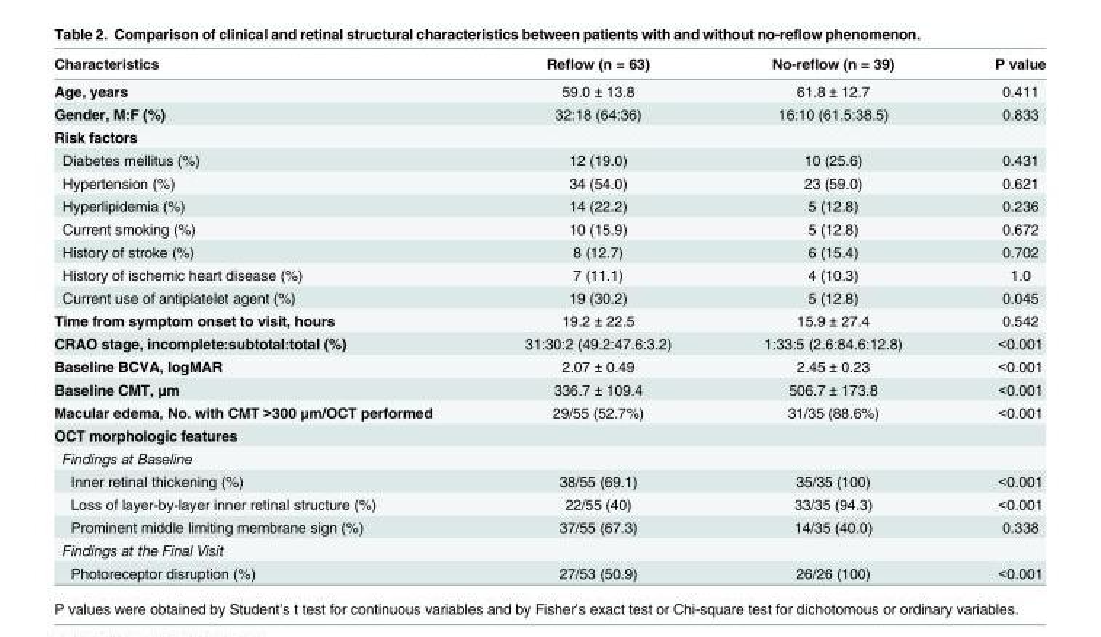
<table><thead><tr><td>Characteristics</td><td>Reflow (n = 63)</td><td>No-reflow (n = 39)</td><td>P value</td></tr></thead><tbody><tr><td>Age, years</td><td>59.0 ± 13.8</td><td>61.8 ± 12.7</td><td>0.411</td></tr><tr><td>Gender, M:F (%)</td><td>32:18 (64:36)</td><td>16:10 (61.5:38.5)</td><td>0.833</td></tr><tr><td colspan="4">Risk factors</td></tr><tr><td>Diabetes mellitus (%)</td><td>12 (19.0)</td><td>10 (25.6)</td><td>0.431</td></tr><tr><td>Hypertension (%)</td><td>34 (54.0)</td><td>23 (59.0)</td><td>0.621</td></tr><tr><td>Hyperlipidemia (%)</td><td>14 (22.2)</td><td>5 (12.8)</td><td>0.236</td></tr><tr><td>Current smoking (%)</td><td>10 (15.9)</td><td>5 (12.8)</td><td>0.672</td></tr><tr><td>History of stroke (%)</td><td>8 (12.7)</td><td>6 (15.4)</td><td>0.702</td></tr><tr><td>History of ischemic heart disease (%)</td><td>7 (11.1)</td><td>4 (10.3)</td><td>1.0</td></tr><tr><td>Current use of antiplatelet agent (%)</td><td>19 (30.2)</td><td>5 (12.8)</td><td>0.045</td></tr><tr><td>Time from symptom onset to visit, hours</td><td>19.2 ± 22.5</td><td>15.9 ± 27.4</td><td>0.542</td></tr><tr><td>CRAO stage, incomplete:subtotal:total (%)</td><td>31:30:2 (49.2:47.6:3.2)</td><td>1:33:5 (2.6:84.6:12.8)</td><td>&lt;0.001</td></tr><tr><td>Baseline BCVA, logMAR</td><td>2.07 ± 0.49</td><td>2.45 ± 0.23</td><td>&lt;0.001</td></tr><tr><td>Baseline CMT, μm</td><td>336.7 ± 109.4</td><td>506.7 ± 173.8</td><td>&lt;0.001</td></tr><tr><td>Macular edema, No. with CMT &gt;300 μm/OCT performed</td><td>29/55 (52.7%)</td><td>31/35 (88.6%)</td><td>&lt;0.001</td></tr><tr><td colspan="4">OCT morphologic features</td></tr><tr><td colspan="4">Findings at Baseline</td></tr><tr><td>Inner retinal thickening (%)</td><td>38/55 (69.1)</td><td>35/35 (100)</td><td>&lt;0.001</td></tr><tr><td>Loss of layer-by-layer inner retinal structure (%)</td><td>22/55 (40)</td><td>33/35 (94.3)</td><td>&lt;0.001</td></tr><tr><td>Prominent middle limiting membrane sign (%)</td><td>37/55 (67.3)</td><td>14/35 (40.0)</td><td>0.338</td></tr><tr><td colspan="4">Findings at the Final Visit</td></tr><tr><td>Photoreceptor disruption (%)</td><td>27/53 (50.9)</td><td>26/26 (100)</td><td>&lt;0.001</td></tr></tbody></table>